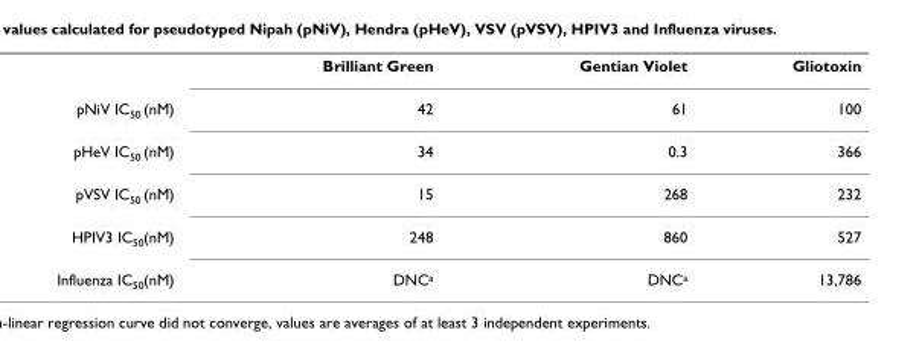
<table><thead><tr><td></td><td>Brilliant Green</td><td>Gentian Violet</td><td>Gliotoxin</td></tr></thead><tbody><tr><td>pNiV IC<sub>50</sub> (nM)</td><td>42</td><td>61</td><td>100</td></tr><tr><td>pHeV IC<sub>50</sub> (nM)</td><td>34</td><td>0.3</td><td>366</td></tr><tr><td>pVSV IC<sub>50</sub> (nM)</td><td>15</td><td>268</td><td>232</td></tr><tr><td>HPIV3 IC<sub>50</sub>(nM)</td><td>248</td><td>860</td><td>527</td></tr><tr><td>Influenza IC<sub>50</sub>(nM)</td><td>DNC<sup>a</sup></td><td>DNC<sup>a</sup></td><td>13,786</td></tr></tbody></table>